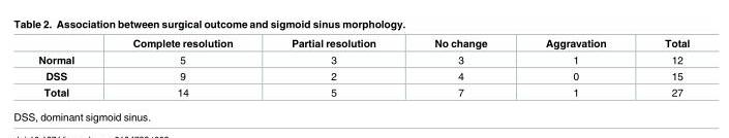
<table><thead><tr><td></td><td>Complete resolution</td><td>Partial resolution</td><td>No change</td><td>Aggravation</td><td>Total</td></tr></thead><tbody><tr><td>Normal</td><td>5</td><td>3</td><td>3</td><td>1</td><td>12</td></tr><tr><td>DSS</td><td>9</td><td>2</td><td>4</td><td>0</td><td>15</td></tr><tr><td>Total</td><td>14</td><td>5</td><td>7</td><td>1</td><td>27</td></tr></tbody></table>